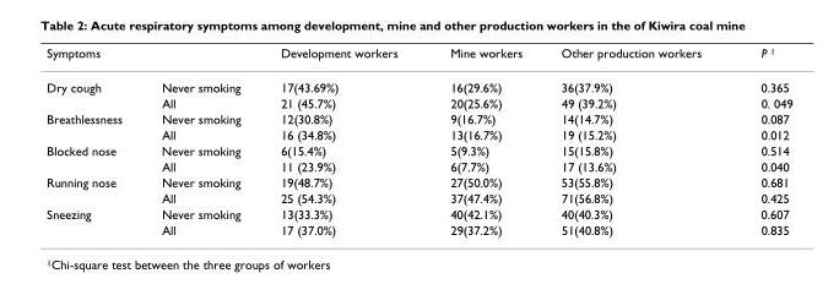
<table><thead><tr><td>Symptoms</td><td></td><td>Development workers</td><td>Mine workers</td><td>Other production workers</td><td>P <sup>1</sup></td></tr></thead><tbody><tr><td rowspan="2">Dry cough</td><td>Never smoking</td><td>17(43.69%)</td><td>16(29.6%)</td><td>36(37.9%)</td><td>0.365</td></tr><tr><td>All</td><td>21 (45.7%)</td><td>20(25.6%)</td><td>49 (39.2%)</td><td>0. 049</td></tr><tr><td rowspan="2">Breathlessness</td><td>Never smoking</td><td>12(30.8%)</td><td>9(16.7%)</td><td>14(14.7%)</td><td>0.087</td></tr><tr><td>All</td><td>16 (34.8%)</td><td>13(16.7%)</td><td>19 (15.2%)</td><td>0.012</td></tr><tr><td rowspan="2">Blocked nose</td><td>Never smoking</td><td>6(15.4%)</td><td>5(9.3%)</td><td>15(15.8%)</td><td>0.514</td></tr><tr><td>All</td><td>11 (23.9%)</td><td>6(7.7%)</td><td>17 (13.6%)</td><td>0.040</td></tr><tr><td rowspan="2">Running nose</td><td>Never smoking</td><td>19(48.7%)</td><td>27(50.0%)</td><td>53(55.8%)</td><td>0.681</td></tr><tr><td>All</td><td>25 (54.3%)</td><td>37(47.4%)</td><td>71(56.8%)</td><td>0.425</td></tr><tr><td rowspan="2">Sneezing</td><td>Never smoking</td><td>13(33.3%)</td><td>40(42.1%)</td><td>40(40.3%)</td><td>0.607</td></tr><tr><td>All</td><td>17 (37.0%)</td><td>29(37.2%)</td><td>51(40.8%)</td><td>0.835</td></tr></tbody></table>